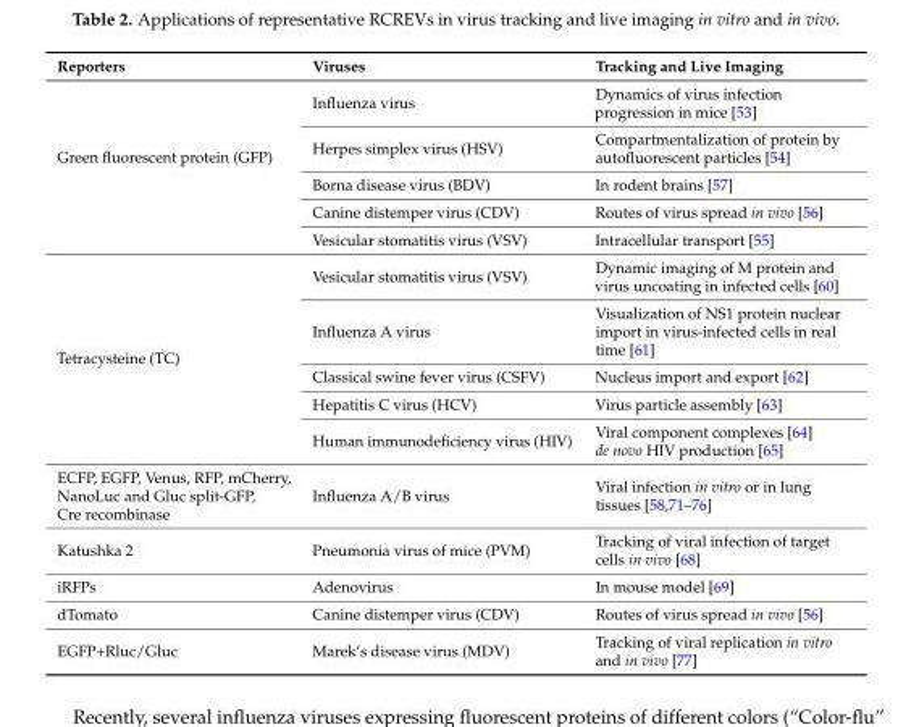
<table><thead><tr><td>Reporters</td><td>Viruses</td><td>Tracking and Live Imaging</td></tr></thead><tbody><tr><td rowspan="5">Green fluorescent protein (GFP)</td><td>Influenza virus</td><td>Dynamics of virus infection progression in mice [53]</td></tr><tr><td>Herpes simplex virus (HSV)</td><td>Compartmentalization of protein by autofluorescent particles [54]</td></tr><tr><td>Borna disease virus (BDV)</td><td>In rodent brains [57]</td></tr><tr><td>Canine distemper virus (CDV)</td><td>Routes of virus spread in vivo [56]</td></tr><tr><td>Vesicular stomatitis virus (VSV)</td><td>Intracellular transport [55]</td></tr><tr><td rowspan="5">Tetracysteine (TC)</td><td>Vesicular stomatitis virus (VSV)</td><td>Dynamic imaging of M protein and virus uncoating in infected cells [60]</td></tr><tr><td>Influenza A virus</td><td>Visualization of NS1 protein nuclear import in virus-infected cells in real time [61]</td></tr><tr><td>Classical swine fever virus (CSFV)</td><td>Nucleus import and export [62]</td></tr><tr><td>Hepatitis C virus (HCV)</td><td>Virus particle assembly [63]</td></tr><tr><td>Human immunodeficiency virus (HIV)</td><td>Viral component complexes [64] de novo HIV production [65]</td></tr><tr><td>ECFP, EGFP, Venus, RFP, mCherry, NanoLuc and Gluc split-GFP, Cre recombinase</td><td>Influenza A/B virus</td><td>Viral infection in vitro or in lung tissues [58,71–76]</td></tr><tr><td>Katushka 2</td><td>Pneumonia virus of mice (PVM)</td><td>Tracking of viral infection of target cells in vivo [68]</td></tr><tr><td>iRFPs</td><td>Adenovirus</td><td>In mouse model [69]</td></tr><tr><td>dTomato</td><td>Canine distemper virus (CDV)</td><td>Routes of virus spread in vivo [56]</td></tr><tr><td>EGFP+Rluc/Gluc</td><td>Marek’s disease virus (MDV)</td><td>Tracking of viral replication in vitro and in vivo [77]</td></tr></tbody></table>